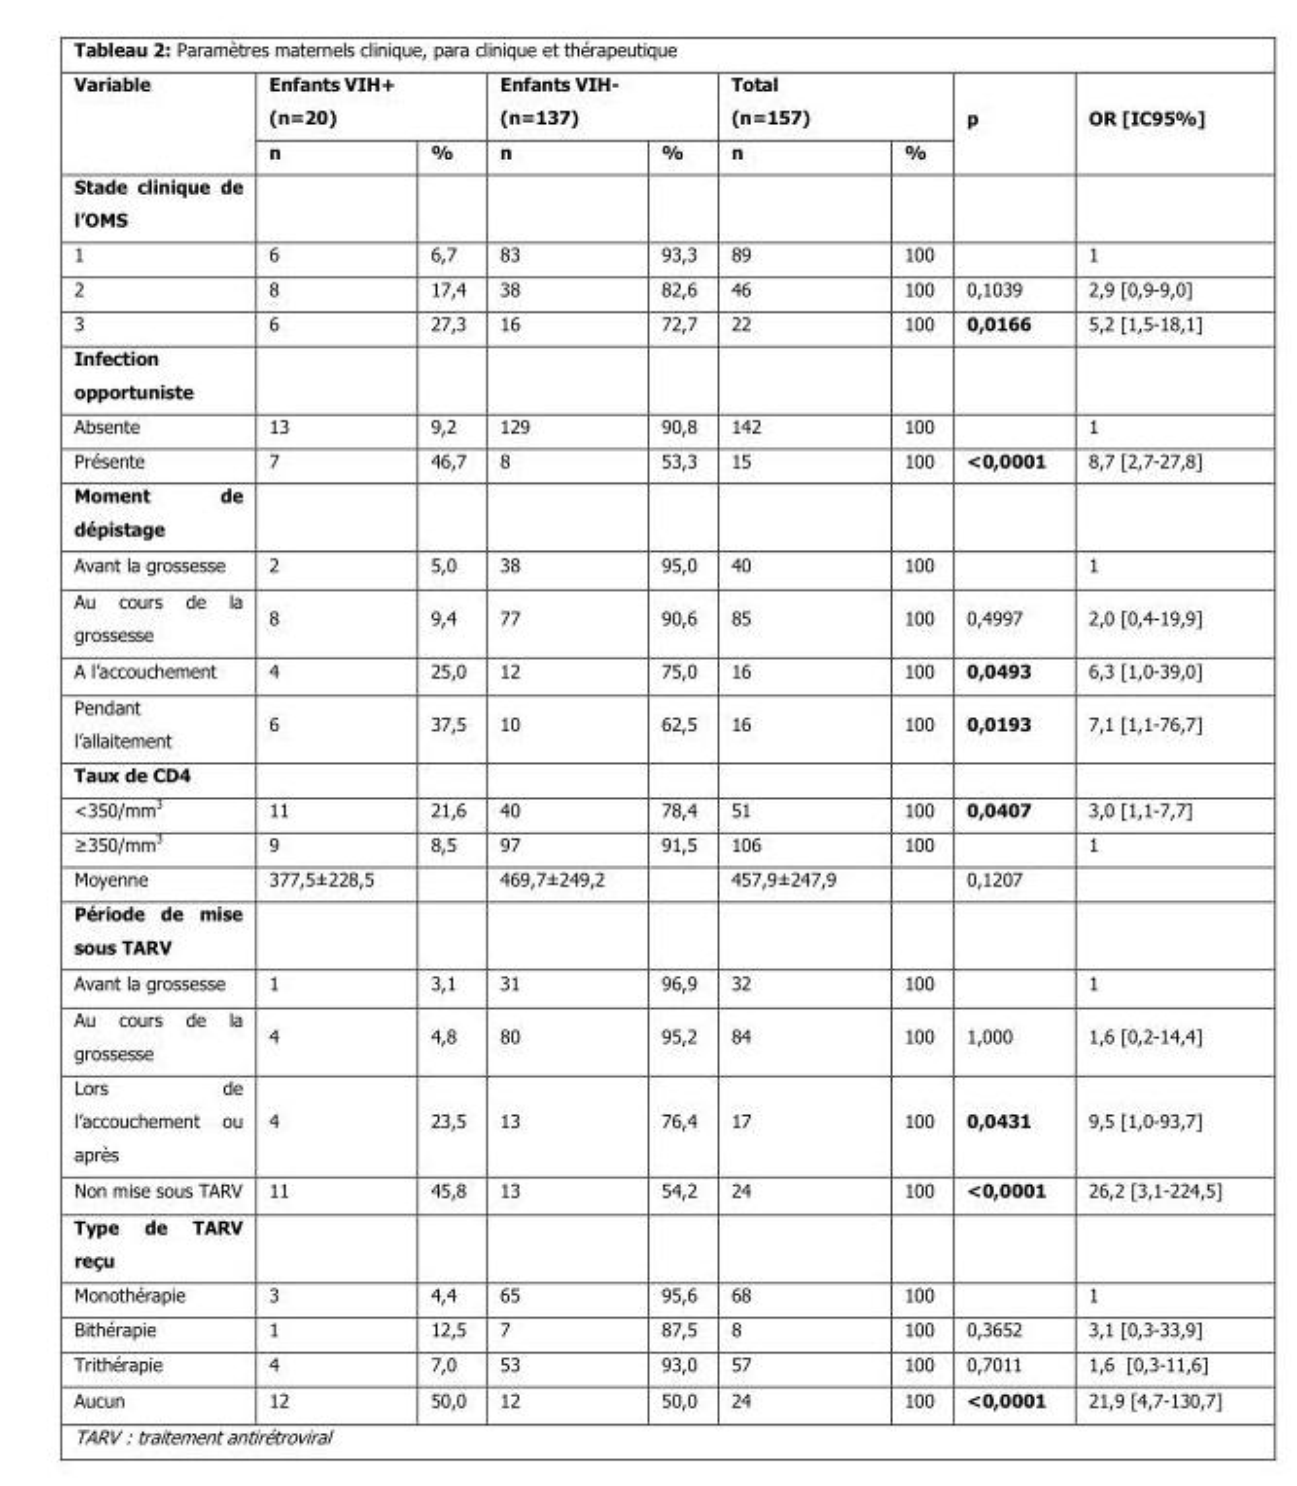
<table><thead><tr><td rowspan="2">Variable</td><td colspan="2">Enfants VIH+ (n=20)</td><td colspan="2">Enfants VIH- (n=137)</td><td colspan="2">Total (n=157)</td><td rowspan="2">p</td><td rowspan="2">OR [IC95%]</td></tr><tr><td>n</td><td>%</td><td>n</td><td>%</td><td>n</td><td>%</td></tr></thead><tbody><tr><td colspan="9">Stade clinique de l’OMS</td></tr><tr><td>1</td><td>6</td><td>6,7</td><td>83</td><td>93,3</td><td>89</td><td>100</td><td></td><td>1</td></tr><tr><td>2</td><td>8</td><td>17,4</td><td>38</td><td>82,6</td><td>46</td><td>100</td><td>0,1039</td><td>2,9 [0,9-9,0]</td></tr><tr><td>3</td><td>6</td><td>27,3</td><td>16</td><td>72,7</td><td>22</td><td>100</td><td>0,0166</td><td>5,2 [1,5-18,1]</td></tr><tr><td colspan="9">Infection opportuniste</td></tr><tr><td>Absente</td><td>13</td><td>9,2</td><td>129</td><td>90,8</td><td>142</td><td>100</td><td></td><td>1</td></tr><tr><td>Présente</td><td>7</td><td>46,7</td><td>8</td><td>53,3</td><td>15</td><td>100</td><td>&lt;0,0001</td><td>8,7 [2,7-27,8]</td></tr><tr><td colspan="9">Moment de dépistage</td></tr><tr><td>Avant la grossesse</td><td>2</td><td>5,0</td><td>38</td><td>95,0</td><td>40</td><td>100</td><td></td><td>1</td></tr><tr><td>Au cours de la grossesse</td><td>8</td><td>9,4</td><td>77</td><td>90,6</td><td>85</td><td>100</td><td>0,4997</td><td>2,0 [0,4-19,9]</td></tr><tr><td>A l’accouchement</td><td>4</td><td>25,0</td><td>12</td><td>75,0</td><td>16</td><td>100</td><td>0,0493</td><td>6,3 [1,0-39,0]</td></tr><tr><td>Pendant l’allaitement</td><td>6</td><td>37,5</td><td>10</td><td>62,5</td><td>16</td><td>100</td><td>0,0193</td><td>7,1 [1,1-76,7]</td></tr><tr><td colspan="9">Taux de CD4</td></tr><tr><td>&lt;350/mm<sup>3</sup></td><td>11</td><td>21,6</td><td>40</td><td>78,4</td><td>51</td><td>100</td><td>0,0407</td><td>3,0 [1,1-7,7]</td></tr><tr><td>≥350/mm<sup>3</sup></td><td>9</td><td>8,5</td><td>97</td><td>91,5</td><td>106</td><td>100</td><td></td><td>1</td></tr><tr><td>Moyenne</td><td>377,5±228,5</td><td></td><td>469,7±249,2</td><td></td><td>457,9±247,9</td><td></td><td>0,1207</td><td></td></tr><tr><td colspan="9">Période de mise sous TARV</td></tr><tr><td>Avant la grossesse</td><td>1</td><td>3,1</td><td>31</td><td>96,9</td><td>32</td><td>100</td><td></td><td>1</td></tr><tr><td>Au cours de la grossesse</td><td>4</td><td>4,8</td><td>80</td><td>95,2</td><td>84</td><td>100</td><td>1,000</td><td>1,6 [0,2-14,4]</td></tr><tr><td>Lors de l’accouchement ou après</td><td>4</td><td>23,5</td><td>13</td><td>76,4</td><td>17</td><td>100</td><td>0,0431</td><td>9,5 [1,0-93,7]</td></tr><tr><td>Non mise sous TARV</td><td>11</td><td>45,8</td><td>13</td><td>54,2</td><td>24</td><td>100</td><td>&lt;0,0001</td><td>26,2 [3,1-224,5]</td></tr><tr><td colspan="9">Type de TARV reçu</td></tr><tr><td>Monothérapie</td><td>3</td><td>4,4</td><td>65</td><td>95,6</td><td>68</td><td>100</td><td></td><td>1</td></tr><tr><td>Bithérapie</td><td>1</td><td>12,5</td><td>7</td><td>87,5</td><td>8</td><td>100</td><td>0,3652</td><td>3,1 [0,3-33,9]</td></tr><tr><td>Trithérapie</td><td>4</td><td>7,0</td><td>53</td><td>93,0</td><td>57</td><td>100</td><td>0,7011</td><td>1,6 [0,3-11,6]</td></tr><tr><td>Aucun</td><td>12</td><td>50,0</td><td>12</td><td>50,0</td><td>24</td><td>100</td><td>&lt;0,0001</td><td>21,9 [4,7-130,7]</td></tr></tbody></table>